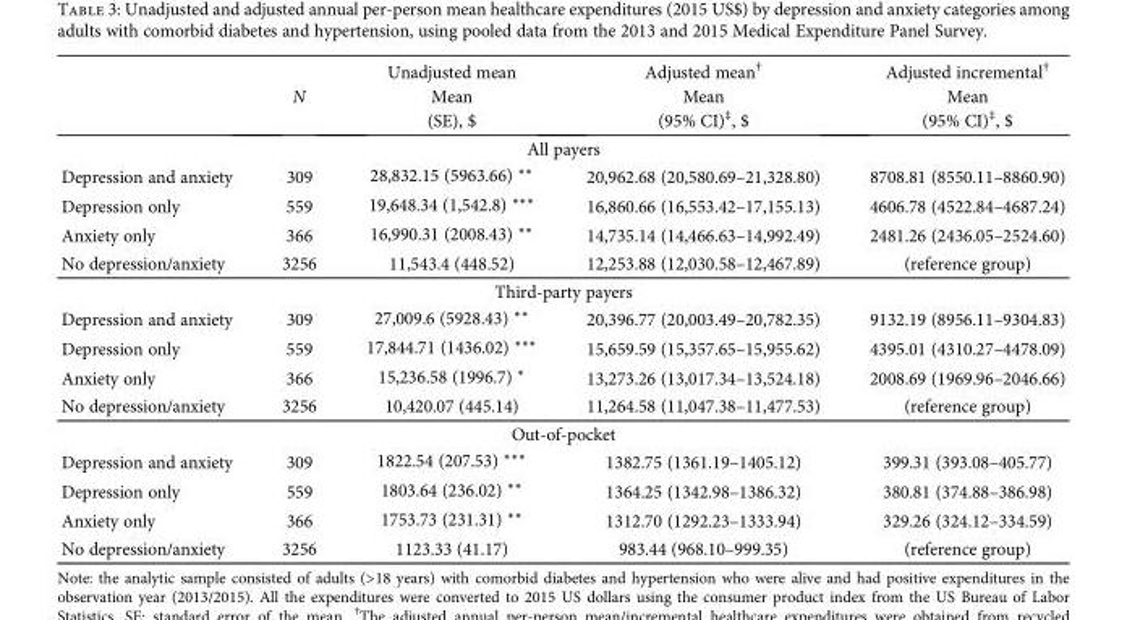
<table><thead><tr><td rowspan="2"></td><td rowspan="2">N</td><td rowspan="2">Unadjusted mean Mean (SE), $</td><td rowspan="2">Adjusted mean<sup>†</sup> Mean (95% CI)<sup>‡</sup>, $</td><td rowspan="2">Adjusted incremental<sup>†</sup> Mean (95% CI)<sup>‡</sup>, $</td></tr><tr></tr></thead><tbody><tr><td colspan="5">All payers</td></tr><tr><td>Depression and anxiety</td><td>309</td><td>28,832.15 (5963.66) ∗∗</td><td>20,962.68 (20,580.69–21,328.80)</td><td>8708.81 (8550.11–8860.90)</td></tr><tr><td>Depression only</td><td>559</td><td>19,648.34 (1,542.8) ∗∗∗</td><td>16,860.66 (16,553.42–17,155.13)</td><td>4606.78 (4522.84–4687.24)</td></tr><tr><td>Anxiety only</td><td>366</td><td>16,990.31 (2008.43) ∗∗</td><td>14,735.14 (14,466.63–14,992.49)</td><td>2481.26 (2436.05–2524.60)</td></tr><tr><td>No depression/anxiety</td><td>3256</td><td>11,543.4 (448.52)</td><td>12,253.88 (12,030.58–12,467.89)</td><td>(reference group)</td></tr><tr><td colspan="5">Third-party payers</td></tr><tr><td>Depression and anxiety</td><td>309</td><td>27,009.6 (5928.43) ∗∗</td><td>20,396.77 (20,003.49–20,782.35)</td><td>9132.19 (8956.11–9304.83)</td></tr><tr><td>Depression only</td><td>559</td><td>17,844.71 (1436.02) ∗∗∗</td><td>15,659.59 (15,357.65–15,955.62)</td><td>4395.01 (4310.27–4478.09)</td></tr><tr><td>Anxiety only</td><td>366</td><td>15,236.58 (1996.7) ∗</td><td>13,273.26 (13,017.34–13,524.18)</td><td>2008.69 (1969.96–2046.66)</td></tr><tr><td>No depression/anxiety</td><td>3256</td><td>10,420.07 (445.14)</td><td>11,264.58 (11,047.38–11,477.53)</td><td>(reference group)</td></tr><tr><td colspan="5">Out-of-pocket</td></tr><tr><td>Depression and anxiety</td><td>309</td><td>1822.54 (207.53) ∗∗∗</td><td>1382.75 (1361.19–1405.12)</td><td>399.31 (393.08–405.77)</td></tr><tr><td>Depression only</td><td>559</td><td>1803.64 (236.02) ∗∗</td><td>1364.25 (1342.98–1386.32)</td><td>380.81 (374.88–386.98)</td></tr><tr><td>Anxiety only</td><td>366</td><td>1753.73 (231.31) ∗∗</td><td>1312.70 (1292.23–1333.94)</td><td>329.26 (324.12–334.59)</td></tr><tr><td>No depression/anxiety</td><td>3256</td><td>1123.33 (41.17)</td><td>983.44 (968.10–999.35)</td><td>(reference group)</td></tr></tbody></table>